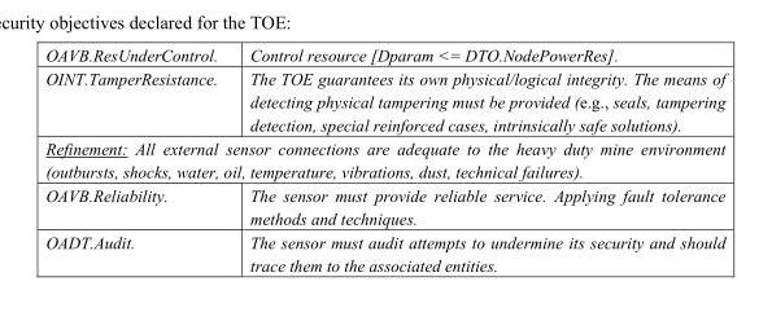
<table><tbody><tr><td>OAVB.ResUnderControl.</td><td>Control resource [Dparam &lt;= DTO.NodePowerRes].</td></tr><tr><td>OINT.TamperResistance.</td><td>The TOE guarantees its own physical/logical integrity. The means of detecting physical tampering must be provided (e.g., seals, tampering detection, special reinforced cases, intrinsically safe solutions).</td></tr><tr><td colspan="2">Refinement: All external sensor connections are adequate to the heavy duty mine environment (outbursts, shocks, water, oil, temperature, vibrations, dust, technical failures).</td></tr><tr><td>OAVB.Reliability.</td><td>The sensor must provide reliable service. Applying fault tolerance methods and techniques.</td></tr><tr><td>OADT.Audit.</td><td>The sensor must audit attempts to undermine its security and should trace them to the associated entities.</td></tr></tbody></table>